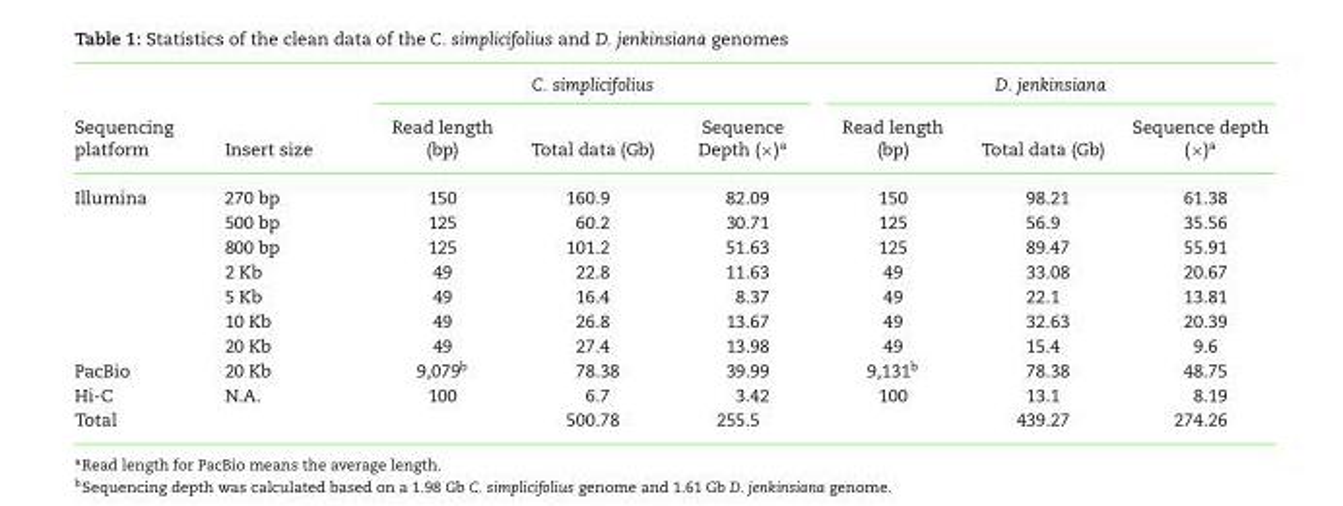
<table><thead><tr><td rowspan="2">Sequencing platform</td><td rowspan="2">Insert size</td><td colspan="3">C. simplicifolius</td><td colspan="3">D. jenkinsiana</td></tr><tr><td>Read length (bp)</td><td>Total data (Gb)</td><td>Sequence Depth (×)<sup>a</sup></td><td>Read length (bp)</td><td>Total data (Gb)</td><td>Sequence depth (×)<sup>a</sup></td></tr></thead><tbody><tr><td rowspan="7">Illumina</td><td>270 bp</td><td>150</td><td>160.9</td><td>82.09</td><td>150</td><td>98.21</td><td>61.38</td></tr><tr><td>500 bp</td><td>125</td><td>60.2</td><td>30.71</td><td>125</td><td>56.9</td><td>35.56</td></tr><tr><td>800 bp</td><td>125</td><td>101.2</td><td>51.63</td><td>125</td><td>89.47</td><td>55.91</td></tr><tr><td>2 Kb</td><td>49</td><td>22.8</td><td>11.63</td><td>49</td><td>33.08</td><td>20.67</td></tr><tr><td>5 Kb</td><td>49</td><td>16.4</td><td>8.37</td><td>49</td><td>22.1</td><td>13.81</td></tr><tr><td>10 Kb</td><td>49</td><td>26.8</td><td>13.67</td><td>49</td><td>32.63</td><td>20.39</td></tr><tr><td>20 Kb</td><td>49</td><td>27.4</td><td>13.98</td><td>49</td><td>15.4</td><td>9.6</td></tr><tr><td>PacBio</td><td>20 Kb</td><td>9,079<sup>b</sup></td><td>78.38</td><td>39.99</td><td>9,131<sup>b</sup></td><td>78.38</td><td>48.75</td></tr><tr><td>Hi-C</td><td>N.A.</td><td>100</td><td>6.7</td><td>3.42</td><td>100</td><td>13.1</td><td>8.19</td></tr><tr><td>Total</td><td></td><td></td><td>500.78</td><td>255.5</td><td></td><td>439.27</td><td>274.26</td></tr></tbody></table>